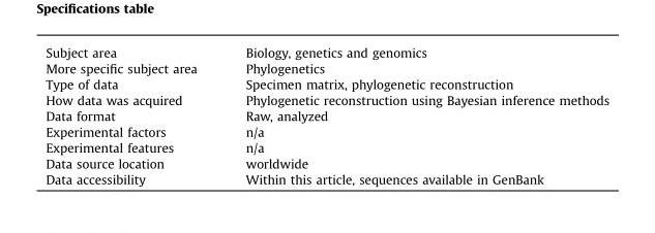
<table><tbody><tr><td>Subject area</td><td>Biology, genetics and genomics</td></tr><tr><td>More specific subject area</td><td>Phylogenetics</td></tr><tr><td>Type of data</td><td>Specimen matrix, phylogenetic reconstruction</td></tr><tr><td>How data was acquired</td><td>Phylogenetic reconstruction using Bayesian inference methods</td></tr><tr><td>Data format</td><td>Raw, analyzed</td></tr><tr><td>Experimental factors</td><td>n/a</td></tr><tr><td>Experimental features</td><td>n/a</td></tr><tr><td>Data source location</td><td>worldwide</td></tr><tr><td>Data accessibility</td><td>Within this article, sequences available in GenBank</td></tr></tbody></table>